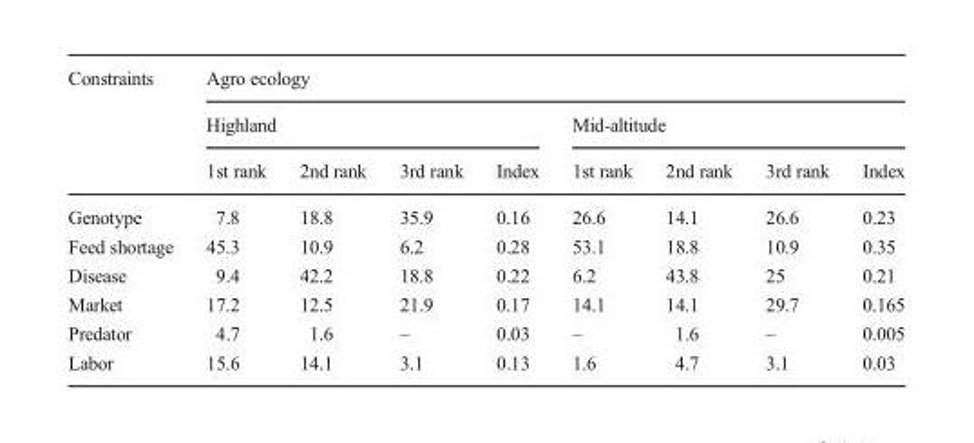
<table><thead><tr><td rowspan="3">Constraints</td><td colspan="8">Agro ecology</td></tr><tr><td colspan="4">Highland</td><td colspan="4">Mid-altitude</td></tr><tr><td>1st rank</td><td>2nd rank</td><td>3rd rank</td><td>Index</td><td>1st rank</td><td>2nd rank</td><td>3rd rank</td><td>Index</td></tr></thead><tbody><tr><td>Genotype</td><td>7.8</td><td>18.8</td><td>35.9</td><td>0.16</td><td>26.6</td><td>14.1</td><td>26.6</td><td>0.23</td></tr><tr><td>Feed shortage</td><td>45.3</td><td>10.9</td><td>6.2</td><td>0.28</td><td>53.1</td><td>18.8</td><td>10.9</td><td>0.35</td></tr><tr><td>Disease</td><td>9.4</td><td>42.2</td><td>18.8</td><td>0.22</td><td>6.2</td><td>43.8</td><td>25</td><td>0.21</td></tr><tr><td>Market</td><td>17.2</td><td>12.5</td><td>21.9</td><td>0.17</td><td>14.1</td><td>14.1</td><td>29.7</td><td>0.165</td></tr><tr><td>Predator</td><td>4.7</td><td>1.6</td><td>–</td><td>0.03</td><td>–</td><td>1.6</td><td>–</td><td>0.005</td></tr><tr><td>Labor</td><td>15.6</td><td>14.1</td><td>3.1</td><td>0.13</td><td>1.6</td><td>4.7</td><td>3.1</td><td>0.03</td></tr></tbody></table>